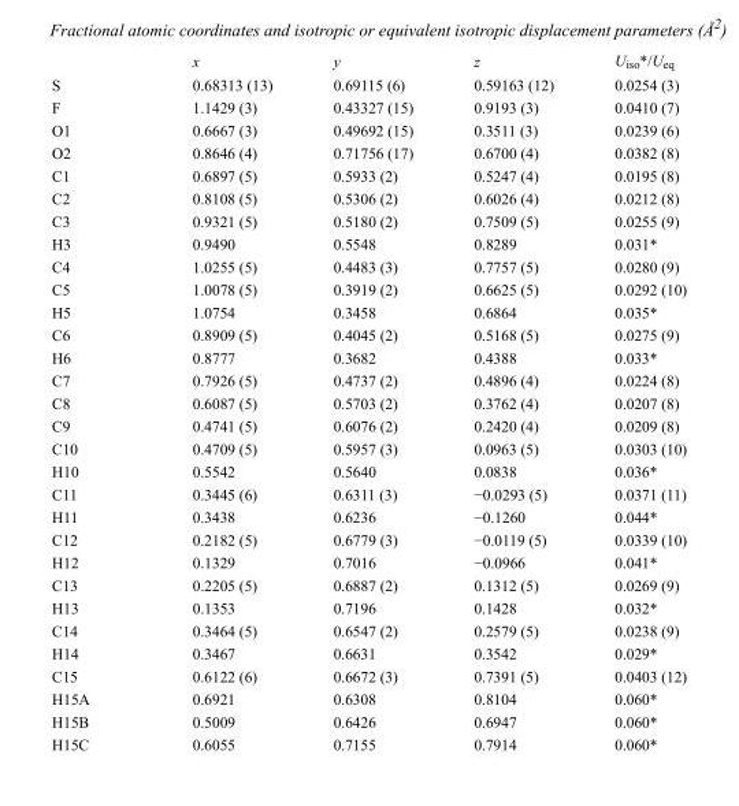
<table><thead><tr><td></td><td>x</td><td>y</td><td>z</td><td>U<sub>iso</sub>*/U<sub>eq</sub></td></tr></thead><tbody><tr><td>S</td><td>0.68313 (13)</td><td>0.69115 (6)</td><td>0.59163 (12)</td><td>0.0254 (3)</td></tr><tr><td>F</td><td>1.1429 (3)</td><td>0.43327 (15)</td><td>0.9193 (3)</td><td>0.0410 (7)</td></tr><tr><td>O1</td><td>0.6667 (3)</td><td>0.49692 (15)</td><td>0.3511 (3)</td><td>0.0239 (6)</td></tr><tr><td>O2</td><td>0.8646 (4)</td><td>0.71756 (17)</td><td>0.6700 (4)</td><td>0.0382 (8)</td></tr><tr><td>C1</td><td>0.6897 (5)</td><td>0.5933 (2)</td><td>0.5247 (4)</td><td>0.0195 (8)</td></tr><tr><td>C2</td><td>0.8108 (5)</td><td>0.5306 (2)</td><td>0.6026 (4)</td><td>0.0212 (8)</td></tr><tr><td>C3</td><td>0.9321 (5)</td><td>0.5180 (2)</td><td>0.7509 (5)</td><td>0.0255 (9)</td></tr><tr><td>H3</td><td>0.9490</td><td>0.5548</td><td>0.8289</td><td>0.031*</td></tr><tr><td>C4</td><td>1.0255 (5)</td><td>0.4483 (3)</td><td>0.7757 (5)</td><td>0.0280 (9)</td></tr><tr><td>C5</td><td>1.0078 (5)</td><td>0.3919 (2)</td><td>0.6625 (5)</td><td>0.0292 (10)</td></tr><tr><td>H5</td><td>1.0754</td><td>0.3458</td><td>0.6864</td><td>0.035*</td></tr><tr><td>C6</td><td>0.8909 (5)</td><td>0.4045 (2)</td><td>0.5168 (5)</td><td>0.0275 (9)</td></tr><tr><td>H6</td><td>0.8777</td><td>0.3682</td><td>0.4388</td><td>0.033*</td></tr><tr><td>C7</td><td>0.7926 (5)</td><td>0.4737 (2)</td><td>0.4896 (4)</td><td>0.0224 (8)</td></tr><tr><td>C8</td><td>0.6087 (5)</td><td>0.5703 (2)</td><td>0.3762 (4)</td><td>0.0207 (8)</td></tr><tr><td>C9</td><td>0.4741 (5)</td><td>0.6076 (2)</td><td>0.2420 (4)</td><td>0.0209 (8)</td></tr><tr><td>C10</td><td>0.4709 (5)</td><td>0.5957 (3)</td><td>0.0963 (5)</td><td>0.0303 (10)</td></tr><tr><td>H10</td><td>0.5542</td><td>0.5640</td><td>0.0838</td><td>0.036*</td></tr><tr><td>C11</td><td>0.3445 (6)</td><td>0.6311 (3)</td><td>−0.0293 (5)</td><td>0.0371 (11)</td></tr><tr><td>H11</td><td>0.3438</td><td>0.6236</td><td>−0.1260</td><td>0.044*</td></tr><tr><td>C12</td><td>0.2182 (5)</td><td>0.6779 (3)</td><td>−0.0119 (5)</td><td>0.0339 (10)</td></tr><tr><td>H12</td><td>0.1329</td><td>0.7016</td><td>−0.0966</td><td>0.041*</td></tr><tr><td>C13</td><td>0.2205 (5)</td><td>0.6887 (2)</td><td>0.1312 (5)</td><td>0.0269 (9)</td></tr><tr><td>H13</td><td>0.1353</td><td>0.7196</td><td>0.1428</td><td>0.032*</td></tr><tr><td>C14</td><td>0.3464 (5)</td><td>0.6547 (2)</td><td>0.2579 (5)</td><td>0.0238 (9)</td></tr><tr><td>H14</td><td>0.3467</td><td>0.6631</td><td>0.3542</td><td>0.029*</td></tr><tr><td>C15</td><td>0.6122 (6)</td><td>0.6672 (3)</td><td>0.7391 (5)</td><td>0.0403 (12)</td></tr><tr><td>H15A</td><td>0.6921</td><td>0.6308</td><td>0.8104</td><td>0.060*</td></tr><tr><td>H15B</td><td>0.5009</td><td>0.6426</td><td>0.6947</td><td>0.060*</td></tr><tr><td>H15C</td><td>0.6055</td><td>0.7155</td><td>0.7914</td><td>0.060*</td></tr></tbody></table>